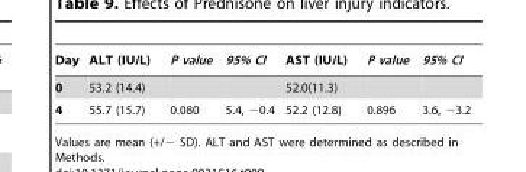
<table><thead><tr><td>Day</td><td>ALT (IU/L)</td><td>P value</td><td>95% CI</td><td>AST (IU/L)</td><td>P value</td><td>95% CI</td></tr></thead><tbody><tr><td>0</td><td>53.2 (14.4)</td><td></td><td></td><td>52.0(11.3)</td><td></td><td></td></tr><tr><td>4</td><td>55.7 (15.7)</td><td>0.080</td><td>5.4, −0.4</td><td>52.2 (12.8)</td><td>0.896</td><td>3.6, −3.2</td></tr></tbody></table>